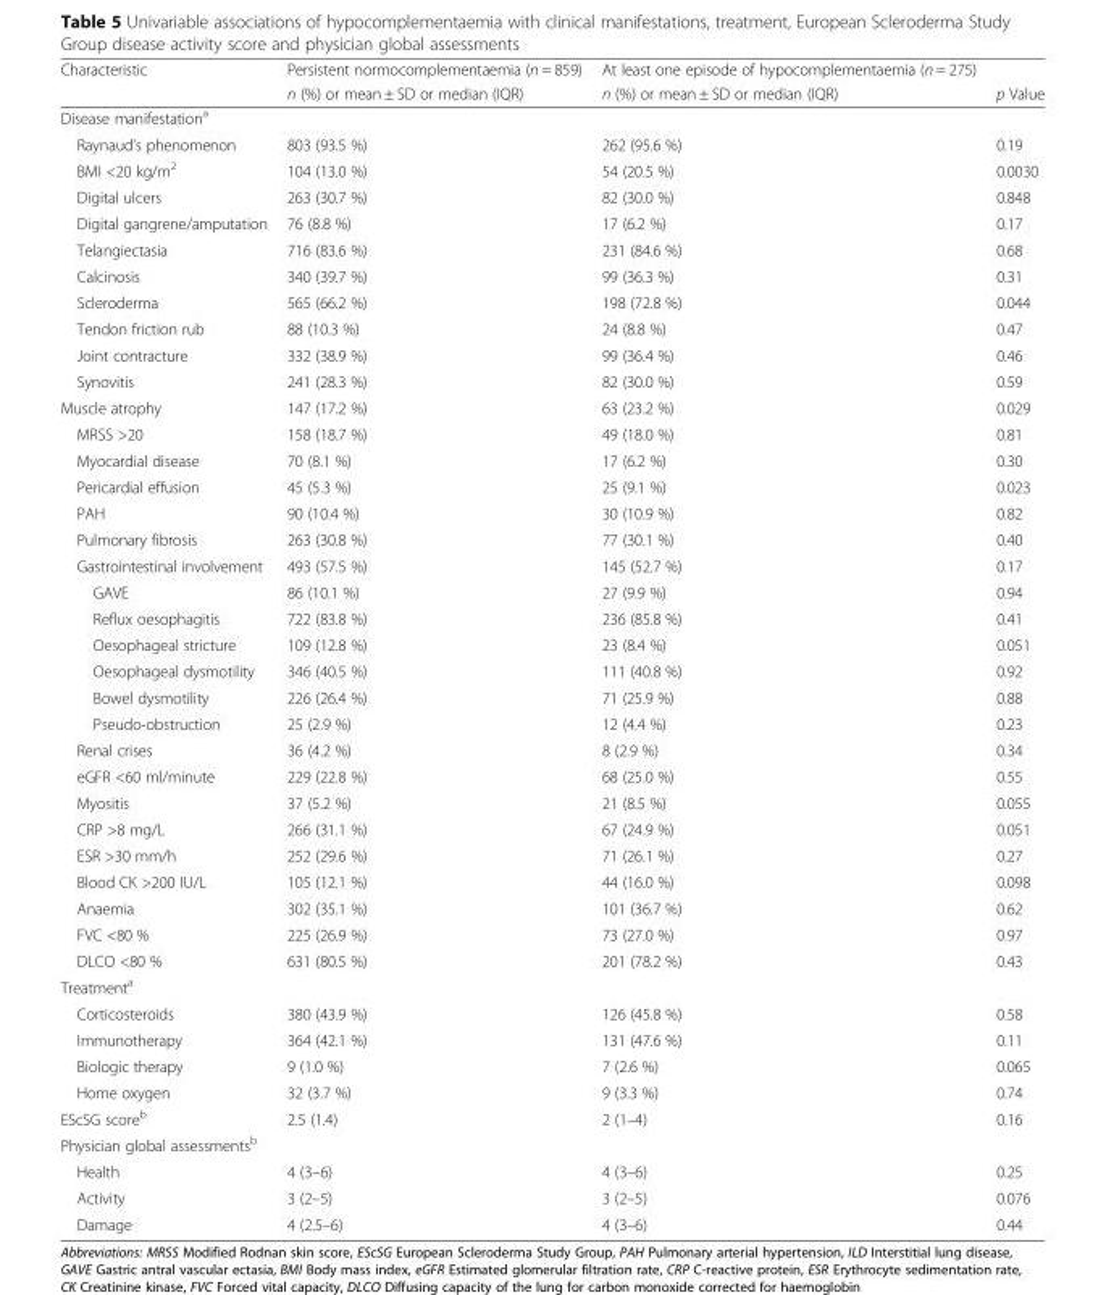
<table><thead><tr><td rowspan="2">Characteristic</td><td rowspan="2">Persistent normocomplementaemia (n = 859) n (%) or mean ± SD or median (IQR)</td><td rowspan="2">At least one episode of hypocomplementaemia (n = 275) n (%) or mean ± SD or median (IQR)</td><td rowspan="2">p Value</td></tr><tr></tr></thead><tbody><tr><td colspan="4">Disease manifestation<sup>a</sup></td></tr><tr><td>Raynaud’s phenomenon</td><td>803 (93.5 %)</td><td>262 (95.6 %)</td><td>0.19</td></tr><tr><td>BMI &lt;20 kg/m<sup>2</sup></td><td>104 (13.0 %)</td><td>54 (20.5 %)</td><td>0.0030</td></tr><tr><td>Digital ulcers</td><td>263 (30.7 %)</td><td>82 (30.0 %)</td><td>0.848</td></tr><tr><td>Digital gangrene/amputation</td><td>76 (8.8 %)</td><td>17 (6.2 %)</td><td>0.17</td></tr><tr><td>Telangiectasia</td><td>716 (83.6 %)</td><td>231 (84.6 %)</td><td>0.68</td></tr><tr><td>Calcinosis</td><td>340 (39.7 %)</td><td>99 (36.3 %)</td><td>0.31</td></tr><tr><td>Scleroderma</td><td>565 (66.2 %)</td><td>198 (72.8 %)</td><td>0.044</td></tr><tr><td>Tendon friction rub</td><td>88 (10.3 %)</td><td>24 (8.8 %)</td><td>0.47</td></tr><tr><td>Joint contracture</td><td>332 (38.9 %)</td><td>99 (36.4 %)</td><td>0.46</td></tr><tr><td>Synovitis</td><td>241 (28.3 %)</td><td>82 (30.0 %)</td><td>0.59</td></tr><tr><td>Muscle atrophy</td><td>147 (17.2 %)</td><td>63 (23.2 %)</td><td>0.029</td></tr><tr><td>MRSS &gt;20</td><td>158 (18.7 %)</td><td>49 (18.0 %)</td><td>0.81</td></tr><tr><td>Myocardial disease</td><td>70 (8.1 %)</td><td>17 (6.2 %)</td><td>0.30</td></tr><tr><td>Pericardial effusion</td><td>45 (5.3 %)</td><td>25 (9.1 %)</td><td>0.023</td></tr><tr><td>PAH</td><td>90 (10.4 %)</td><td>30 (10.9 %)</td><td>0.82</td></tr><tr><td>Pulmonary fibrosis</td><td>263 (30.8 %)</td><td>77 (30.1 %)</td><td>0.40</td></tr><tr><td>Gastrointestinal involvement</td><td>493 (57.5 %)</td><td>145 (52.7 %)</td><td>0.17</td></tr><tr><td>GAVE</td><td>86 (10.1 %)</td><td>27 (9.9 %)</td><td>0.94</td></tr><tr><td>Reflux oesophagitis</td><td>722 (83.8 %)</td><td>236 (85.8 %)</td><td>0.41</td></tr><tr><td>Oesophageal stricture</td><td>109 (12.8 %)</td><td>23 (8.4 %)</td><td>0.051</td></tr><tr><td>Oesophageal dysmotility</td><td>346 (40.5 %)</td><td>111 (40.8 %)</td><td>0.92</td></tr><tr><td>Bowel dysmotility</td><td>226 (26.4 %)</td><td>71 (25.9 %)</td><td>0.88</td></tr><tr><td>Pseudo-obstruction</td><td>25 (2.9 %)</td><td>12 (4.4 %)</td><td>0.23</td></tr><tr><td>Renal crises</td><td>36 (4.2 %)</td><td>8 (2.9 %)</td><td>0.34</td></tr><tr><td>eGFR &lt;60 ml/minute</td><td>229 (22.8 %)</td><td>68 (25.0 %)</td><td>0.55</td></tr><tr><td>Myositis</td><td>37 (5.2 %)</td><td>21 (8.5 %)</td><td>0.055</td></tr><tr><td>CRP &gt;8 mg/L</td><td>266 (31.1 %)</td><td>67 (24.9 %)</td><td>0.051</td></tr><tr><td>ESR &gt;30 mm/h</td><td>252 (29.6 %)</td><td>71 (26.1 %)</td><td>0.27</td></tr><tr><td>Blood CK &gt;200 IU/L</td><td>105 (12.1 %)</td><td>44 (16.0 %)</td><td>0.098</td></tr><tr><td>Anaemia</td><td>302 (35.1 %)</td><td>101 (36.7 %)</td><td>0.62</td></tr><tr><td>FVC &lt;80 %</td><td>225 (26.9 %)</td><td>73 (27.0 %)</td><td>0.97</td></tr><tr><td>DLCO &lt;80 %</td><td>631 (80.5 %)</td><td>201 (78.2 %)</td><td>0.43</td></tr><tr><td colspan="4">Treatment<sup>a</sup></td></tr><tr><td>Corticosteroids</td><td>380 (43.9 %)</td><td>126 (45.8 %)</td><td>0.58</td></tr><tr><td>Immunotherapy</td><td>364 (42.1 %)</td><td>131 (47.6 %)</td><td>0.11</td></tr><tr><td>Biologic therapy</td><td>9 (1.0 %)</td><td>7 (2.6 %)</td><td>0.065</td></tr><tr><td>Home oxygen</td><td>32 (3.7 %)</td><td>9 (3.3 %)</td><td>0.74</td></tr><tr><td>EScSG score<sup>b</sup></td><td>2.5 (1.4)</td><td>2 (1–4)</td><td>0.16</td></tr><tr><td colspan="4">Physician global assessments<sup>b</sup></td></tr><tr><td>Health</td><td>4 (3–6)</td><td>4 (3–6)</td><td>0.25</td></tr><tr><td>Activity</td><td>3 (2–5)</td><td>3 (2–5)</td><td>0.076</td></tr><tr><td>Damage</td><td>4 (2.5–6)</td><td>4 (3–6)</td><td>0.44</td></tr></tbody></table>